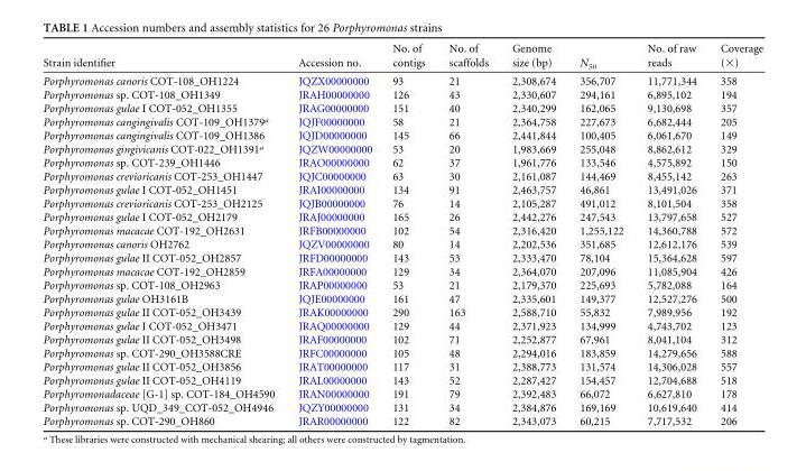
<table><thead><tr><td>Strain identifier</td><td>Accession no.</td><td>No. of contigs</td><td>No. of scaffolds</td><td>Genome size (bp)</td><td>N<sub>50</sub></td><td>No. of raw reads</td><td>Coverage (×)</td></tr></thead><tbody><tr><td>Porphyromonas canoris COT-108_OH1224</td><td>JQZX00000000</td><td>93</td><td>21</td><td>2,308,674</td><td>356,707</td><td>11,771,344</td><td>358</td></tr><tr><td>Porphyromonas sp. COT-108_OH1349</td><td>JRAH00000000</td><td>126</td><td>43</td><td>2,330,607</td><td>294,161</td><td>6,895,102</td><td>194</td></tr><tr><td>Porphyromonas gulae I COT-052_OH1355</td><td>JRAG00000000</td><td>151</td><td>40</td><td>2,340,299</td><td>162,065</td><td>9,130,698</td><td>357</td></tr><tr><td>Porphyromonas cangingivalis COT-109_OH1379<sup>a</sup></td><td>JQJF00000000</td><td>58</td><td>21</td><td>2,364,758</td><td>227,673</td><td>6,682,444</td><td>205</td></tr><tr><td>Porphyromonas cangingivalis COT-109_OH1386</td><td>JQJD00000000</td><td>145</td><td>66</td><td>2,441,844</td><td>100,405</td><td>6,061,670</td><td>149</td></tr><tr><td>Porphyromonas gingivicanis COT-022_OH1391<sup>a</sup></td><td>JQZW00000000</td><td>53</td><td>20</td><td>1,983,669</td><td>255,048</td><td>8,862,612</td><td>329</td></tr><tr><td>Porphyromonas sp. COT-239_OH1446</td><td>JRAO00000000</td><td>62</td><td>37</td><td>1,961,776</td><td>133,546</td><td>4,575,892</td><td>150</td></tr><tr><td>Porphyromonas crevioricanis COT-253_OH1447</td><td>JQJC00000000</td><td>63</td><td>30</td><td>2,161,087</td><td>144,469</td><td>8,455,142</td><td>263</td></tr><tr><td>Porphyromonas gulae I COT-052_OH1451</td><td>JRAI00000000</td><td>134</td><td>91</td><td>2,463,757</td><td>46,861</td><td>13,491,026</td><td>371</td></tr><tr><td>Porphyromonas crevioricanis COT-253_OH2125</td><td>JQJB00000000</td><td>76</td><td>14</td><td>2,105,287</td><td>491,012</td><td>8,101,504</td><td>358</td></tr><tr><td>Porphyromonas gulae I COT-052_OH2179</td><td>JRAJ00000000</td><td>165</td><td>26</td><td>2,442,276</td><td>247,543</td><td>13,797,658</td><td>527</td></tr><tr><td>Porphyromonas macacae COT-192_OH2631</td><td>JRFB00000000</td><td>102</td><td>54</td><td>2,316,420</td><td>1,255,122</td><td>14,360,788</td><td>572</td></tr><tr><td>Porphyromonas canoris OH2762</td><td>JQZV00000000</td><td>80</td><td>14</td><td>2,202,536</td><td>351,685</td><td>12,612,176</td><td>539</td></tr><tr><td>Porphyromonas gulae II COT-052_OH2857</td><td>JRFD00000000</td><td>143</td><td>53</td><td>2,333,470</td><td>78,104</td><td>15,364,628</td><td>597</td></tr><tr><td>Porphyromonas macacae COT-192_OH2859</td><td>JRFA00000000</td><td>129</td><td>34</td><td>2,364,070</td><td>207,096</td><td>11,085,904</td><td>426</td></tr><tr><td>Porphyromonas sp. COT-108_OH2963</td><td>JRAP00000000</td><td>53</td><td>21</td><td>2,179,370</td><td>225,693</td><td>5,782,088</td><td>164</td></tr><tr><td>Porphyromonas gulae OH3161B</td><td>JQJE00000000</td><td>161</td><td>47</td><td>2,335,601</td><td>149,377</td><td>12,527,276</td><td>500</td></tr><tr><td>Porphyromonas gulae II COT-052_OH3439</td><td>JRAK00000000</td><td>290</td><td>163</td><td>2,588,710</td><td>55,832</td><td>7,989,956</td><td>192</td></tr><tr><td>Porphyromonas gulae I COT-052_OH3471</td><td>JRAQ00000000</td><td>129</td><td>44</td><td>2,371,923</td><td>134,999</td><td>4,743,702</td><td>123</td></tr><tr><td>Porphyromonas gulae II COT-052_OH3498</td><td>JRAF00000000</td><td>102</td><td>71</td><td>2,252,877</td><td>67,961</td><td>8,041,104</td><td>312</td></tr><tr><td>Porphyromonas sp. COT-290_OH3588CRE</td><td>JRFC00000000</td><td>105</td><td>48</td><td>2,294,016</td><td>183,859</td><td>14,279,656</td><td>588</td></tr><tr><td>Porphyromonas gulae II COT-052_OH3856</td><td>JRAT00000000</td><td>117</td><td>31</td><td>2,388,773</td><td>131,574</td><td>14,306,028</td><td>557</td></tr><tr><td>Porphyromonas gulae II COT-052_OH4119</td><td>JRAL00000000</td><td>143</td><td>52</td><td>2,287,427</td><td>154,457</td><td>12,704,688</td><td>518</td></tr><tr><td>Porphyromonadaceae [G-1] sp. COT-184_OH4590</td><td>JRAN00000000</td><td>191</td><td>79</td><td>2,392,483</td><td>66,072</td><td>6,627,810</td><td>178</td></tr><tr><td>Porphyromonas sp. UQD_349_COT-052_OH4946</td><td>JQZY00000000</td><td>131</td><td>34</td><td>2,384,876</td><td>169,169</td><td>10,619,640</td><td>414</td></tr><tr><td>Porphyromonas sp. COT-290_OH860</td><td>JRAR00000000</td><td>122</td><td>82</td><td>2,343,073</td><td>60,215</td><td>7,717,532</td><td>206</td></tr></tbody></table>